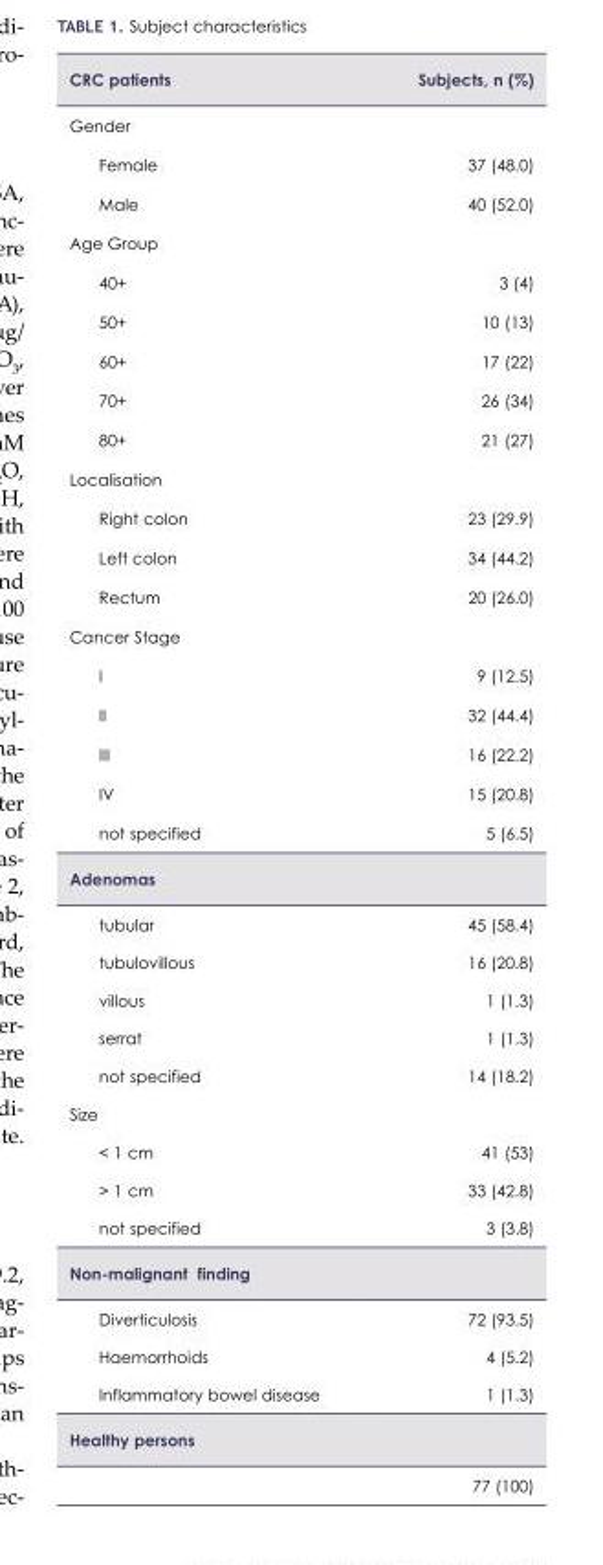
<table><tbody><tr><td>CRC patients</td><td>Subjects, n (%)</td></tr><tr><td colspan="2">Gender</td></tr><tr><td>Female</td><td>37 (48.0)</td></tr><tr><td>Male</td><td>40 (52.0)</td></tr><tr><td colspan="2">Age Group</td></tr><tr><td>40+</td><td>3 (4)</td></tr><tr><td>50+</td><td>10 (13)</td></tr><tr><td>60+</td><td>17 (22)</td></tr><tr><td>70+</td><td>26 (34)</td></tr><tr><td>80+</td><td>21 (27)</td></tr><tr><td colspan="2">Localisation</td></tr><tr><td>Right colon</td><td>23 (29.9)</td></tr><tr><td>Left colon</td><td>34 (44.2)</td></tr><tr><td>Rectum</td><td>20 (26.0)</td></tr><tr><td colspan="2">Cancer Stage</td></tr><tr><td>I</td><td>9 (12.5)</td></tr><tr><td>II</td><td>32 (44.4)</td></tr><tr><td>III</td><td>16 (22.2)</td></tr><tr><td>IV</td><td>15 (20.8)</td></tr><tr><td>not specified</td><td>5 (6.5)</td></tr><tr><td colspan="2">Adenomas</td></tr><tr><td>tubular</td><td>45 (58.4)</td></tr><tr><td>tubulovillous</td><td>16 (20.8)</td></tr><tr><td>villous</td><td>1 (1.3)</td></tr><tr><td>serrat</td><td>1 (1.3)</td></tr><tr><td>not specified</td><td>14 (18.2)</td></tr><tr><td colspan="2">Size</td></tr><tr><td>&lt; 1 cm</td><td>41 (53)</td></tr><tr><td>&gt; 1 cm</td><td>33 (42.8)</td></tr><tr><td>not specified</td><td>3 (3.8)</td></tr><tr><td colspan="2">Non-malignant finding</td></tr><tr><td>Diverticulosis</td><td>72 (93.5)</td></tr><tr><td>Haemorrhoids</td><td>4 (5.2)</td></tr><tr><td>Inflammatory bowel disease</td><td>1 (1.3)</td></tr><tr><td colspan="2">Healthy persons</td></tr><tr><td></td><td>77 (100)</td></tr></tbody></table>